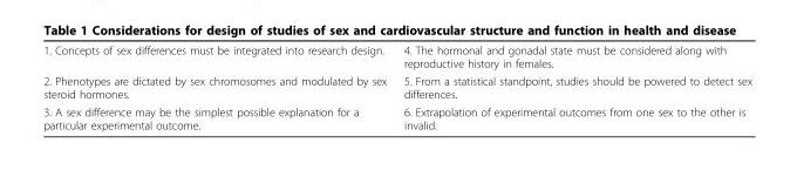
<table><tbody><tr><td>1. Concepts of sex differences must be integrated into research design.</td><td>4. The hormonal and gonadal state must be considered along with reproductive history in females.</td></tr><tr><td>2. Phenotypes are dictated by sex chromosomes and modulated by sex steroid hormones.</td><td>5. From a statistical standpoint, studies should be powered to detect sex differences.</td></tr><tr><td>3. A sex difference may be the simplest possible explanation for a particular experimental outcome.</td><td>6. Extrapolation of experimental outcomes from one sex to the other is invalid.</td></tr></tbody></table>